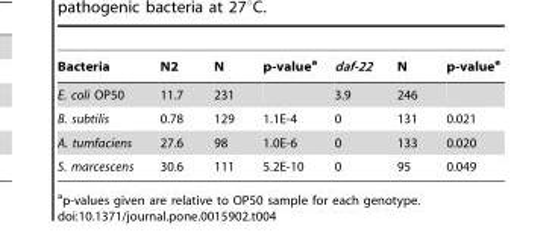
<table><thead><tr><td>Bacteria</td><td>N2</td><td>N</td><td>p-value<sup>a</sup></td><td>daf-22</td><td>N</td><td>p-value<sup>a</sup></td></tr></thead><tbody><tr><td>E. coli OP50</td><td>11.7</td><td>231</td><td></td><td>3.9</td><td>246</td><td></td></tr><tr><td>B. subtilis</td><td>0.78</td><td>129</td><td>1.1E-4</td><td>0</td><td>131</td><td>0.021</td></tr><tr><td>A. tumfaciens</td><td>27.6</td><td>98</td><td>1.0E-6</td><td>0</td><td>133</td><td>0.020</td></tr><tr><td>S. marcescens</td><td>30.6</td><td>111</td><td>5.2E-10</td><td>0</td><td>95</td><td>0.049</td></tr></tbody></table>